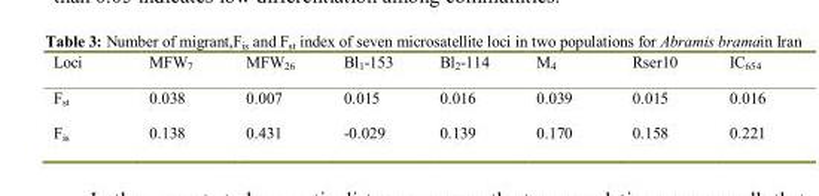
<table><thead><tr><td>Loci</td><td>MFW<sub>7</sub></td><td>MFW<sub>26</sub></td><td>Bl<sub>1</sub>-153</td><td>Bl<sub>2</sub>-114</td><td>M<sub>4</sub></td><td>Rser10</td><td>IC<sub>654</sub></td></tr></thead><tbody><tr><td>F<sub>st</sub></td><td>0.038</td><td>0.007</td><td>0.015</td><td>0.016</td><td>0.039</td><td>0.015</td><td>0.016</td></tr><tr><td>F<sub>is</sub></td><td>0.138</td><td>0.431</td><td>-0.029</td><td>0.139</td><td>0.170</td><td>0.158</td><td>0.221</td></tr></tbody></table>